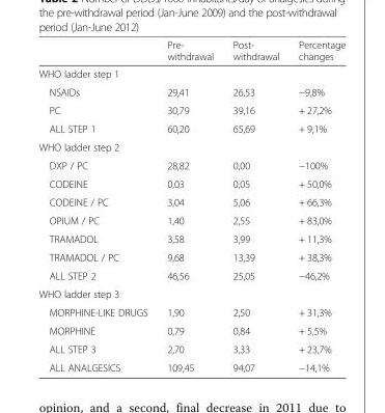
<table><thead><tr><td></td><td>Pre- withdrawal</td><td>Post- withdrawal</td><td>Percentage changes</td></tr></thead><tbody><tr><td colspan="4">WHO ladder step 1</td></tr><tr><td>NSAIDs</td><td>29,41</td><td>26,53</td><td>−9,8%</td></tr><tr><td>PC</td><td>30,79</td><td>39,16</td><td>+ 27,2%</td></tr><tr><td>ALL STEP 1</td><td>60,20</td><td>65,69</td><td>+ 9,1%</td></tr><tr><td colspan="4">WHO ladder step 2</td></tr><tr><td>DXP / PC</td><td>28,82</td><td>0,00</td><td>−100%</td></tr><tr><td>CODEINE</td><td>0,03</td><td>0,05</td><td>+ 50,0%</td></tr><tr><td>CODEINE / PC</td><td>3,04</td><td>5,06</td><td>+ 66,3%</td></tr><tr><td>OPIUM / PC</td><td>1,40</td><td>2,55</td><td>+ 83,0%</td></tr><tr><td>TRAMADOL</td><td>3,58</td><td>3,99</td><td>+ 11,3%</td></tr><tr><td>TRAMADOL / PC</td><td>9,68</td><td>13,39</td><td>+ 38,3%</td></tr><tr><td>ALL STEP 2</td><td>46,56</td><td>25,05</td><td>−46,2%</td></tr><tr><td colspan="4">WHO ladder step 3</td></tr><tr><td>MORPHINE-LIKE DRUGS</td><td>1,90</td><td>2,50</td><td>+ 31,3%</td></tr><tr><td>MORPHINE</td><td>0,79</td><td>0,84</td><td>+ 5,5%</td></tr><tr><td>ALL STEP 3</td><td>2,70</td><td>3,33</td><td>+ 23,7%</td></tr><tr><td>ALL ANALGESICS</td><td>109,45</td><td>94,07</td><td>−14,1%</td></tr></tbody></table>